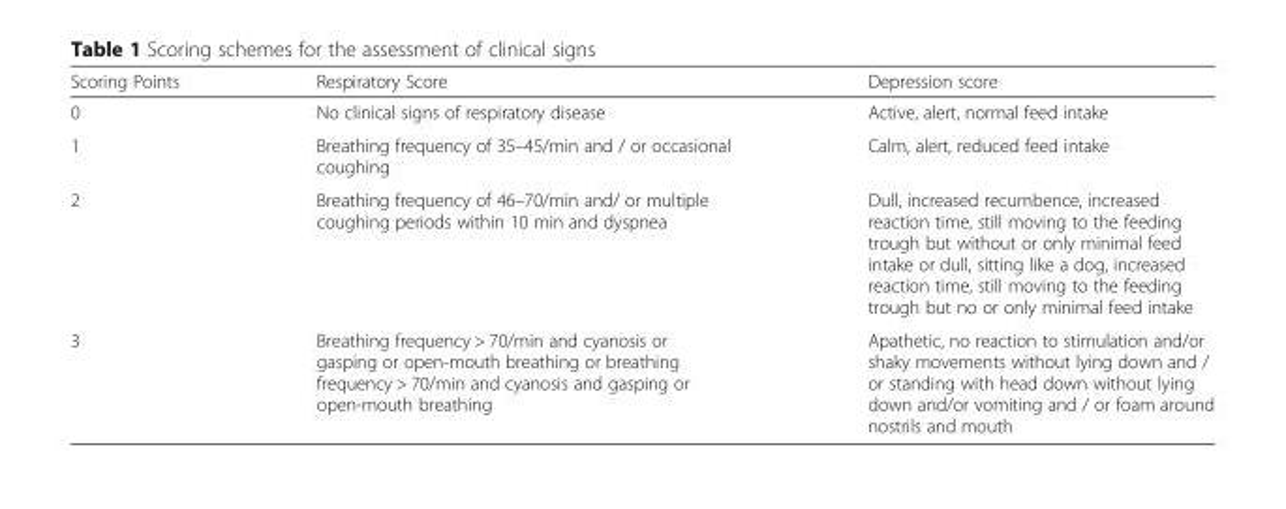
<table><thead><tr><td>Scoring Points</td><td>Respiratory Score</td><td>Depression score</td></tr></thead><tbody><tr><td>0</td><td>No clinical signs of respiratory disease</td><td>Active, alert, normal feed intake</td></tr><tr><td>1</td><td>Breathing frequency of 35–45/min and / or occasional coughing</td><td>Calm, alert, reduced feed intake</td></tr><tr><td>2</td><td>Breathing frequency of 46–70/min and/ or multiple coughing periods within 10 min and dyspnea</td><td>Dull, increased recumbence, increased reaction time, still moving to the feeding trough but without or only minimal feed intake or dull, sitting like a dog, increased reaction time, still moving to the feeding trough but no or only minimal feed intake</td></tr><tr><td>3</td><td>Breathing frequency &gt; 70/min and cyanosis or gasping or open-mouth breathing or breathing frequency &gt; 70/min and cyanosis and gasping or open-mouth breathing</td><td>Apathetic, no reaction to stimulation and/or shaky movements without lying down and / or standing with head down without lying down and/or vomiting and / or foam around nostrils and mouth</td></tr></tbody></table>